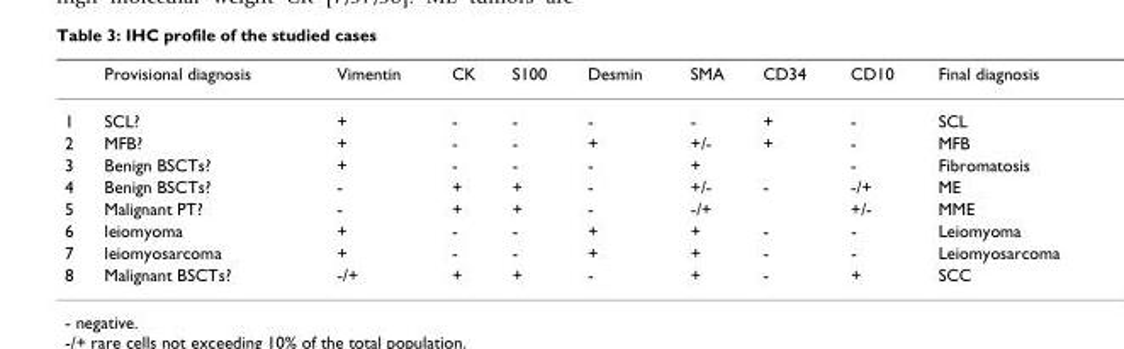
<table><thead><tr><td></td><td>Provisional diagnosis</td><td>Vimentin</td><td>CK</td><td>S100</td><td>Desmin</td><td>SMA</td><td>CD34</td><td>CD10</td><td>Final diagnosis</td></tr></thead><tbody><tr><td>1</td><td>SCL?</td><td>+</td><td>-</td><td>-</td><td>-</td><td>-</td><td>+</td><td>-</td><td>SCL</td></tr><tr><td>2</td><td>MFB?</td><td>+</td><td>-</td><td>-</td><td>+</td><td>+/-</td><td>+</td><td>-</td><td>MFB</td></tr><tr><td>3</td><td>Benign BSCTs?</td><td>+</td><td>-</td><td>-</td><td>-</td><td>+</td><td></td><td>-</td><td>Fibromatosis</td></tr><tr><td>4</td><td>Benign BSCTs?</td><td>-</td><td>+</td><td>+</td><td>-</td><td>+/-</td><td>-</td><td>-/+</td><td>ME</td></tr><tr><td>5</td><td>Malignant PT?</td><td>-</td><td>+</td><td>+</td><td>-</td><td>-/+</td><td></td><td>+/-</td><td>MME</td></tr><tr><td>6</td><td>leiomyoma</td><td>+</td><td>-</td><td>-</td><td>+</td><td>+</td><td>-</td><td>-</td><td>Leiomyoma</td></tr><tr><td>7</td><td>leiomyosarcoma</td><td>+</td><td>-</td><td>-</td><td>+</td><td>+</td><td>-</td><td>-</td><td>Leiomyosarcoma</td></tr><tr><td>8</td><td>Malignant BSCTs?</td><td>-/+</td><td>+</td><td>+</td><td>-</td><td>+</td><td>-</td><td>+</td><td>SCC</td></tr></tbody></table>